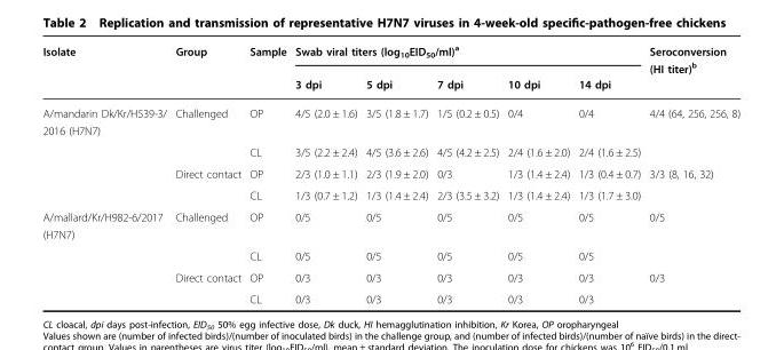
<table><thead><tr><td rowspan="2">Isolate</td><td rowspan="2">Group</td><td rowspan="2">Sample</td><td colspan="5">Swab viral titers (log<sub>10</sub>EID<sub>50</sub>/ml)<sup>a</sup></td><td rowspan="2">Seroconversion (HI titer)<sup>b</sup></td></tr><tr><td>3 dpi</td><td>5 dpi</td><td>7 dpi</td><td>10 dpi</td><td>14 dpi</td></tr></thead><tbody><tr><td rowspan="4">A/mandarin Dk/Kr/H539-3/ 2016 (H7N7)</td><td>Challenged</td><td>OP</td><td>4/5 (2.0 ± 1.6)</td><td>3/5 (1.8 ± 1.7)</td><td>1/5 (0.2 ± 0.5)</td><td>0/4</td><td>0/4</td><td>4/4 (64, 256, 256, 8)</td></tr><tr><td></td><td>CL</td><td>3/5 (2.2 ± 2.4)</td><td>4/5 (3.6 ± 2.6)</td><td>4/5 (4.2 ± 2.5)</td><td>2/4 (1.6 ± 2.0)</td><td>2/4 (1.6 ± 2.5)</td><td></td></tr><tr><td>Direct contact</td><td>OP</td><td>2/3 (1.0 ± 1.1)</td><td>2/3 (1.9 ± 2.0)</td><td>0/3</td><td>1/3 (1.4 ± 2.4)</td><td>1/3 (0.4 ± 0.7)</td><td>3/3 (8, 16, 32)</td></tr><tr><td></td><td>CL</td><td>1/3 (0.7 ± 1.2)</td><td>1/3 (1.4 ± 2.4)</td><td>2/3 (3.5 ± 3.2)</td><td>1/3 (1.4 ± 2.4)</td><td>1/3 (1.7 ± 3.0)</td><td></td></tr><tr><td rowspan="4">A/mallard/Kr/H982-6/2017 (H7N7)</td><td>Challenged</td><td>OP</td><td>0/5</td><td>0/5</td><td>0/5</td><td>0/5</td><td>0/5</td><td>0/5</td></tr><tr><td></td><td>CL</td><td>0/5</td><td>0/5</td><td>0/5</td><td>0/5</td><td>0/5</td><td></td></tr><tr><td>Direct contact</td><td>OP</td><td>0/3</td><td>0/3</td><td>0/3</td><td>0/3</td><td>0/3</td><td>0/3</td></tr><tr><td></td><td>CL</td><td>0/3</td><td>0/3</td><td>0/3</td><td>0/3</td><td>0/3</td><td></td></tr></tbody></table>